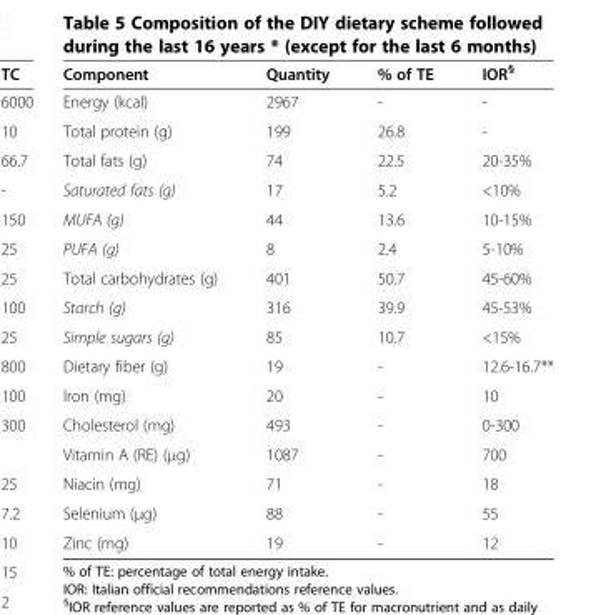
<table><thead><tr><td>Component</td><td>Quantity</td><td>% of TE</td><td>IOR<sup>§</sup></td></tr></thead><tbody><tr><td>Energy (kcal)</td><td>2967</td><td>-</td><td>-</td></tr><tr><td>Total protein (g)</td><td>199</td><td>26.8</td><td>-</td></tr><tr><td>Total fats (g)</td><td>74</td><td>22.5</td><td>20-35%</td></tr><tr><td>Saturated fats (g)</td><td>17</td><td>5.2</td><td>&lt;10%</td></tr><tr><td>MUFA (g)</td><td>44</td><td>13.6</td><td>10-15%</td></tr><tr><td>PUFA (g)</td><td>8</td><td>2.4</td><td>5-10%</td></tr><tr><td>Total carbohydrates (g)</td><td>401</td><td>50.7</td><td>45-60%</td></tr><tr><td>Starch (g)</td><td>316</td><td>39.9</td><td>45-53%</td></tr><tr><td>Simple sugars (g)</td><td>85</td><td>10.7</td><td>&lt;15%</td></tr><tr><td>Dietary fiber (g)</td><td>19</td><td>-</td><td>12.6-16.7**</td></tr><tr><td>Iron (mg)</td><td>20</td><td>-</td><td>10</td></tr><tr><td>Cholesterol (mg)</td><td>493</td><td>-</td><td>0-300</td></tr><tr><td>Vitamin A (RE) (μg)</td><td>1087</td><td>-</td><td>700</td></tr><tr><td>Niacin (mg)</td><td>71</td><td>-</td><td>18</td></tr><tr><td>Selenium (μg)</td><td>88</td><td>-</td><td>55</td></tr><tr><td>Zinc (mg)</td><td>19</td><td>-</td><td>12</td></tr></tbody></table>